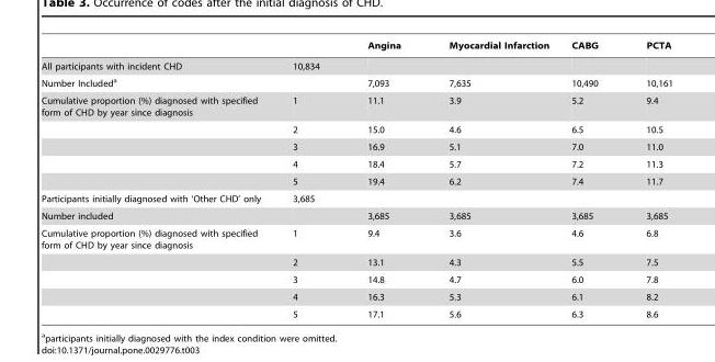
<table><thead><tr><td></td><td></td><td>Angina</td><td>Myocardial Infarction</td><td>CABG</td><td>PCTA</td></tr></thead><tbody><tr><td>All participants with incident CHD</td><td>10,834</td><td></td><td></td><td></td><td></td></tr><tr><td>Number Included<sup>a</sup></td><td></td><td>7,093</td><td>7,635</td><td>10,490</td><td>10,161</td></tr><tr><td rowspan="5">Cumulative proportion (%) diagnosed with specified form of CHD by year since diagnosis</td><td>1</td><td>11.1</td><td>3.9</td><td>5.2</td><td>9.4</td></tr><tr><td>2</td><td>15.0</td><td>4.6</td><td>6.5</td><td>10.5</td></tr><tr><td>3</td><td>16.9</td><td>5.1</td><td>7.0</td><td>11.0</td></tr><tr><td>4</td><td>18.4</td><td>5.7</td><td>7.2</td><td>11.3</td></tr><tr><td>5</td><td>19.4</td><td>6.2</td><td>7.4</td><td>11.7</td></tr><tr><td>Participants initially diagnosed with ‘Other CHD’ only</td><td>3,685</td><td></td><td></td><td></td><td></td></tr><tr><td>Number included</td><td></td><td>3,685</td><td>3,685</td><td>3,685</td><td>3,685</td></tr><tr><td rowspan="5">Cumulative proportion (%) diagnosed with specified form of CHD by year since diagnosis</td><td>1</td><td>9.4</td><td>3.6</td><td>4.6</td><td>6.8</td></tr><tr><td>2</td><td>13.1</td><td>4.3</td><td>5.5</td><td>7.5</td></tr><tr><td>3</td><td>14.8</td><td>4.7</td><td>6.0</td><td>7.8</td></tr><tr><td>4</td><td>16.3</td><td>5.3</td><td>6.1</td><td>8.2</td></tr><tr><td>5</td><td>17.1</td><td>5.6</td><td>6.3</td><td>8.6</td></tr></tbody></table>